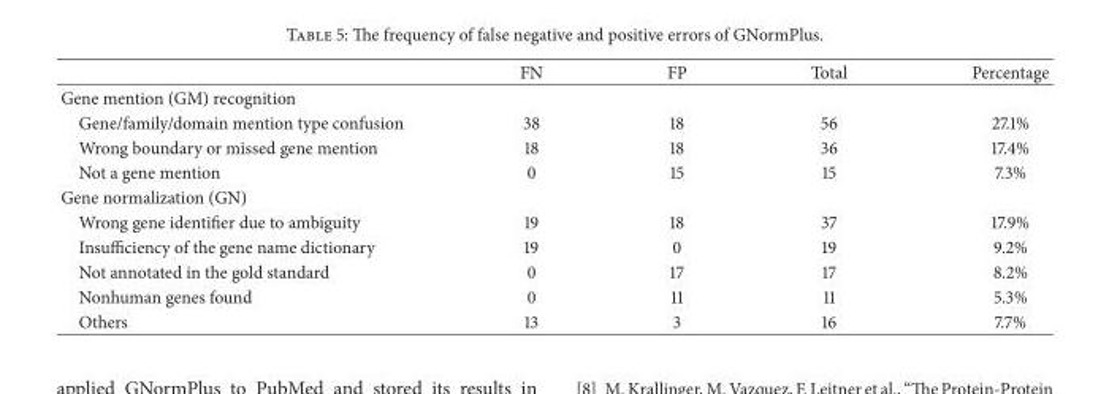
<table><thead><tr><td></td><td>FN</td><td>FP</td><td>Total</td><td>Percentage</td></tr></thead><tbody><tr><td colspan="5">Gene mention (GM) recognition</td></tr><tr><td>Gene/family/domain mention type confusion</td><td>38</td><td>18</td><td>56</td><td>27.1%</td></tr><tr><td>Wrong boundary or missed gene mention</td><td>18</td><td>18</td><td>36</td><td>17.4%</td></tr><tr><td>Not a gene mention</td><td>0</td><td>15</td><td>15</td><td>7.3%</td></tr><tr><td colspan="5">Gene normalization (GN)</td></tr><tr><td>Wrong gene identifier due to ambiguity</td><td>19</td><td>18</td><td>37</td><td>17.9%</td></tr><tr><td>Insufficiency of the gene name dictionary</td><td>19</td><td>0</td><td>19</td><td>9.2%</td></tr><tr><td>Not annotated in the gold standard</td><td>0</td><td>17</td><td>17</td><td>8.2%</td></tr><tr><td>Nonhuman genes found</td><td>0</td><td>11</td><td>11</td><td>5.3%</td></tr><tr><td>Others</td><td>13</td><td>3</td><td>16</td><td>7.7%</td></tr></tbody></table>